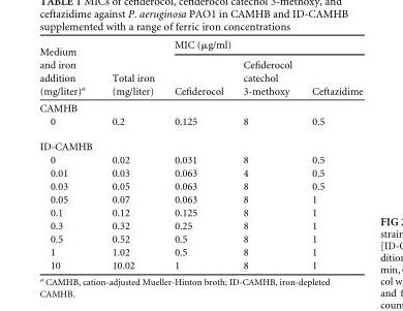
<table><thead><tr><td rowspan="2">Medium and iron addition (mg/liter)<sup>a</sup></td><td rowspan="2">Total iron (mg/liter)</td><td colspan="3">MIC (μg/ml)</td></tr><tr><td>Cefiderocol</td><td>Cefiderocol catechol 3-methoxy</td><td>Ceftazidime</td></tr></thead><tbody><tr><td colspan="5">CAMHB</td></tr><tr><td>0</td><td>0.2</td><td>0.125</td><td>8</td><td>0.5</td></tr><tr><td colspan="5">ID-CAMHB</td></tr><tr><td>0</td><td>0.02</td><td>0.031</td><td>8</td><td>0.5</td></tr><tr><td>0.01</td><td>0.03</td><td>0.063</td><td>4</td><td>0.5</td></tr><tr><td>0.03</td><td>0.05</td><td>0.063</td><td>8</td><td>0.5</td></tr><tr><td>0.05</td><td>0.07</td><td>0.063</td><td>8</td><td>1</td></tr><tr><td>0.1</td><td>0.12</td><td>0.125</td><td>8</td><td>1</td></tr><tr><td>0.3</td><td>0.32</td><td>0.25</td><td>8</td><td>1</td></tr><tr><td>0.5</td><td>0.52</td><td>0.5</td><td>8</td><td>1</td></tr><tr><td>1</td><td>1.02</td><td>0.5</td><td>8</td><td>1</td></tr><tr><td>10</td><td>10.02</td><td>1</td><td>8</td><td>1</td></tr></tbody></table>